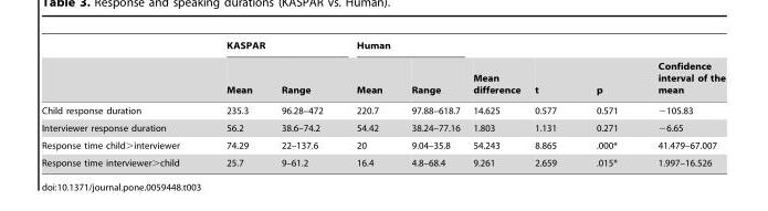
<table><thead><tr><td rowspan="2"></td><td colspan="2">KASPAR</td><td colspan="2">Human</td><td rowspan="2">Mean difference</td><td rowspan="2">t</td><td rowspan="2">p</td><td rowspan="2">Confidence interval of the mean</td></tr><tr><td>Mean</td><td>Range</td><td>Mean</td><td>Range</td></tr></thead><tbody><tr><td>Child response duration</td><td>235.3</td><td>96.28–472</td><td>220.7</td><td>97.88–618.7</td><td>14.625</td><td>0.577</td><td>0.571</td><td>−105.83</td></tr><tr><td>Interviewer response duration</td><td>56.2</td><td>38.6–74.2</td><td>54.42</td><td>38.24–77.16</td><td>1.803</td><td>1.131</td><td>0.271</td><td>−6.65</td></tr><tr><td>Response time child&gt;interviewer</td><td>74.29</td><td>22–137.6</td><td>20</td><td>9.04–35.8</td><td>54.243</td><td>8.865</td><td>.000*</td><td>41.479–67.007</td></tr><tr><td>Response time interviewer&gt;child</td><td>25.7</td><td>9–61.2</td><td>16.4</td><td>4.8–68.4</td><td>9.261</td><td>2.659</td><td>.015*</td><td>1.997–16.526</td></tr></tbody></table>